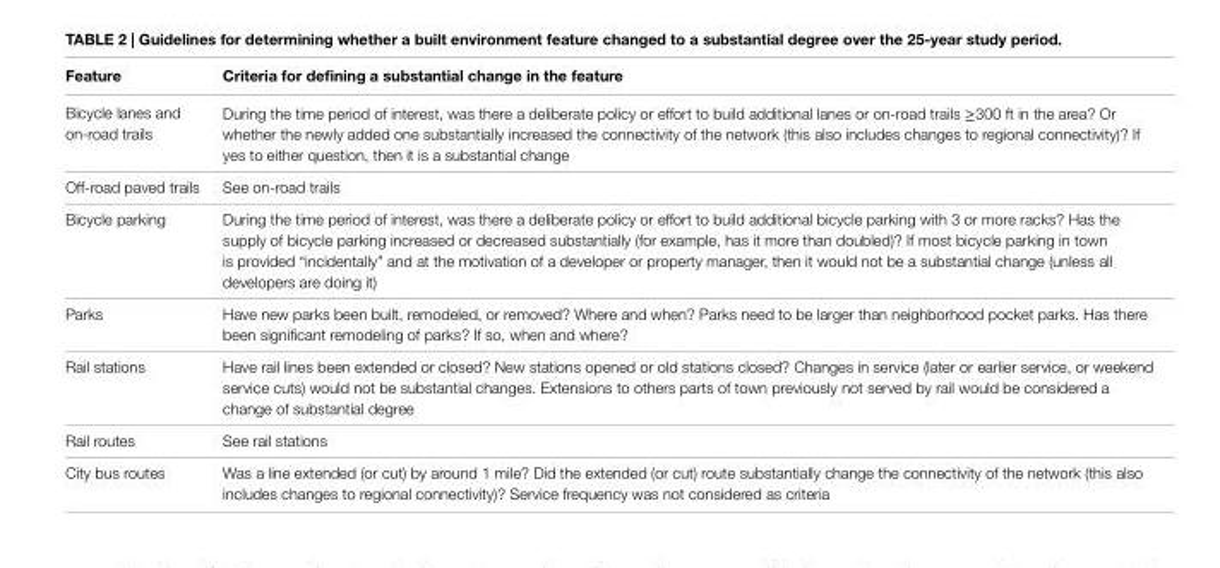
<table><thead><tr><td>Feature</td><td>Criteria for defining a substantial change in the feature</td></tr></thead><tbody><tr><td>Bicycle lanes and on-road trails</td><td>During the time period of interest, was there a deliberate policy or effort to build additional lanes or on-road trails ≥300 ft in the area? Or whether the newly added one substantially increased the connectivity of the network (this also includes changes to regional connectivity)? If yes to either question, then it is a substantial change</td></tr><tr><td>Off-road paved trails</td><td>See on-road trails</td></tr><tr><td>Bicycle parking</td><td>During the time period of interest, was there a deliberate policy or effort to build additional bicycle parking with 3 or more racks? Has the supply of bicycle parking increased or decreased substantially (for example, has it more than doubled)? If most bicycle parking in town is provided “incidentally” and at the motivation of a developer or property manager, then it would not be a substantial change (unless all developers are doing it)</td></tr><tr><td>Parks</td><td>Have new parks been built, remodeled, or removed? Where and when? Parks need to be larger than neighborhood pocket parks. Has there been significant remodeling of parks? If so, when and where?</td></tr><tr><td>Rail stations</td><td>Have rail lines been extended or closed? New stations opened or old stations closed? Changes in service (later or earlier service, or weekend service cuts) would not be substantial changes. Extensions to others parts of town previously not served by rail would be considered a change of substantial degree</td></tr><tr><td>Rail routes</td><td>See rail stations</td></tr><tr><td>City bus routes</td><td>Was a line extended (or cut) by around 1 mile? Did the extended (or cut) route substantially change the connectivity of the network (this also includes changes to regional connectivity)? Service frequency was not considered as criteria</td></tr></tbody></table>